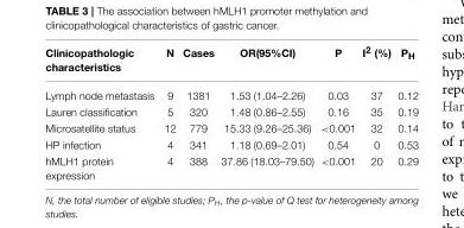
<table><thead><tr><td>Clinicopathologic characteristics</td><td>N</td><td>Cases</td><td>OR(95%CI)</td><td>P</td><td>I<sup>2</sup> (%)</td><td>P<sub>H</sub></td></tr></thead><tbody><tr><td>Lymph node metastasis</td><td>9</td><td>1381</td><td>1.53 (1.04–2.26)</td><td>0.03</td><td>37</td><td>0.12</td></tr><tr><td>Lauren classification</td><td>5</td><td>320</td><td>1.48 (0.86–2.55)</td><td>0.16</td><td>35</td><td>0.19</td></tr><tr><td>Microsatellite status</td><td>12</td><td>779</td><td>15.33 (9.26–25.36)</td><td>&lt;0.001</td><td>32</td><td>0.14</td></tr><tr><td>HP infection</td><td>4</td><td>341</td><td>1.18 (0.69–2.01)</td><td>0.54</td><td>0</td><td>0.53</td></tr><tr><td>hMLH1 protein expression</td><td>4</td><td>388</td><td>37.86 (18.03–79.50)</td><td>&lt;0.001</td><td>20</td><td>0.29</td></tr></tbody></table>